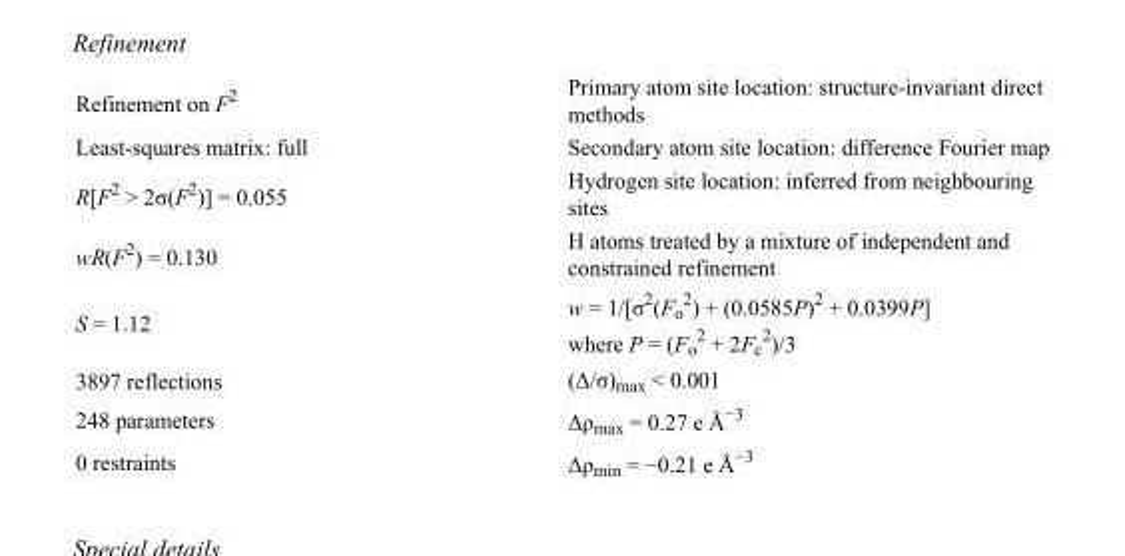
<table><tbody><tr><td>Refinement on F<sup>2</sup></td><td>Primary atom site location: structure-invariant direct methods</td></tr><tr><td>Least-squares matrix: full</td><td>Secondary atom site location: difference Fourier map</td></tr><tr><td>R[F<sup>2</sup> &gt; 2σ(F<sup>2</sup>)] = 0.055</td><td>Hydrogen site location: inferred from neighbouring sites</td></tr><tr><td>wR(F<sup>2</sup>) = 0.130</td><td>H atoms treated by a mixture of independent and constrained refinement</td></tr><tr><td>S = 1.12</td><td>w = 1/[σ<sup>2</sup>(F<sub>o</sub> <sup>2</sup>) + (0.0585P)<sup>2</sup> + 0.0399P] where P = (F<sub>o</sub> <sup>2</sup> + 2F<sub>c</sub> <sup>2</sup>)/3</td></tr><tr><td>3897 reflections</td><td>(Δ/σ)<sub>max</sub> &lt; 0.001</td></tr><tr><td>248 parameters</td><td>Δρ<sub>max</sub> = 0.27 e Å<sup>−3</sup></td></tr><tr><td>0 restraints</td><td>Δρ<sub>min</sub> = −0.21 e Å<sup>−3</sup></td></tr></tbody></table>